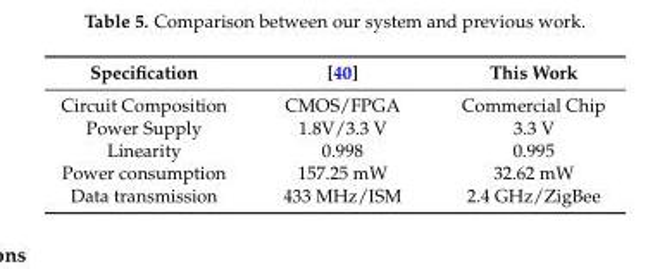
<table><thead><tr><td>Specification</td><td>[40]</td><td>This Work</td></tr></thead><tbody><tr><td>Circuit Composition</td><td>CMOS/FPGA</td><td>Commercial Chip</td></tr><tr><td>Power Supply</td><td>1.8V/3.3 V</td><td>3.3 V</td></tr><tr><td>Linearity</td><td>0.998</td><td>0.995</td></tr><tr><td>Power consumption</td><td>157.25 mW</td><td>32.62 mW</td></tr><tr><td>Data transmission</td><td>433 MHz/ISM</td><td>2.4 GHz/ZigBee</td></tr></tbody></table>